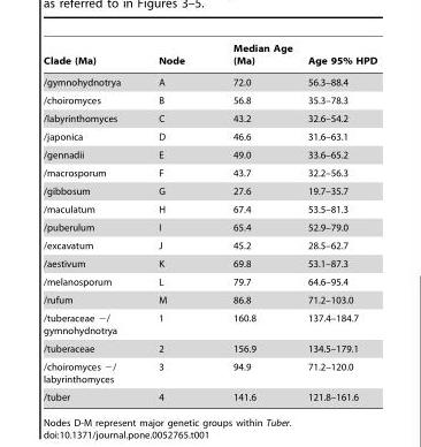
<table><thead><tr><td>Clade (Ma)</td><td>Node</td><td>Median Age (Ma)</td><td>Age 95% HPD</td></tr></thead><tbody><tr><td>/gymnohydnotrya</td><td>A</td><td>72.0</td><td>56.3–88.4</td></tr><tr><td>/choiromyces</td><td>B</td><td>56.8</td><td>35.3–78.3</td></tr><tr><td>/labyrinthomyces</td><td>C</td><td>43.2</td><td>32.6–54.2</td></tr><tr><td>/japonica</td><td>D</td><td>46.6</td><td>31.6–63.1</td></tr><tr><td>/gennadii</td><td>E</td><td>49.0</td><td>33.6–65.2</td></tr><tr><td>/macrosporum</td><td>F</td><td>43.7</td><td>32.2–56.3</td></tr><tr><td>/gibbosum</td><td>G</td><td>27.6</td><td>19.7–35.7</td></tr><tr><td>/maculatum</td><td>H</td><td>67.4</td><td>53.5–81.3</td></tr><tr><td>/puberulum</td><td>I</td><td>65.4</td><td>52.9–79.0</td></tr><tr><td>/excavatum</td><td>J</td><td>45.2</td><td>28.5–62.7</td></tr><tr><td>/aestivum</td><td>K</td><td>69.8</td><td>53.1–87.3</td></tr><tr><td>/melanosporum</td><td>L</td><td>79.7</td><td>64.6–95.4</td></tr><tr><td>/rufum</td><td>M</td><td>86.8</td><td>71.2–103.0</td></tr><tr><td>/tuberaceae −/ gymnohydnotrya</td><td>1</td><td>160.8</td><td>137.4–184.7</td></tr><tr><td>/tuberaceae</td><td>2</td><td>156.9</td><td>134.5–179.1</td></tr><tr><td>/choiromyces −/ labyrinthomyces</td><td>3</td><td>94.9</td><td>71.2–120.0</td></tr><tr><td>/tuber</td><td>4</td><td>141.6</td><td>121.8–161.6</td></tr></tbody></table>